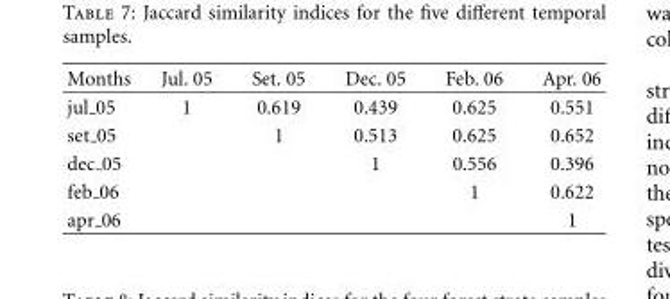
<table><thead><tr><td>Months</td><td>Jul. 05</td><td>Set. 05</td><td>Dec. 05</td><td>Feb. 06</td><td>Apr. 06</td></tr></thead><tbody><tr><td>jul 05</td><td>1</td><td>0.619</td><td>0.439</td><td>0.625</td><td>0.551</td></tr><tr><td>set 05</td><td></td><td>1</td><td>0.513</td><td>0.625</td><td>0.652</td></tr><tr><td>dec 05</td><td></td><td></td><td>1</td><td>0.556</td><td>0.396</td></tr><tr><td>feb 06</td><td></td><td></td><td></td><td>1</td><td>0.622</td></tr><tr><td>apr 06</td><td></td><td></td><td></td><td></td><td>1</td></tr></tbody></table>